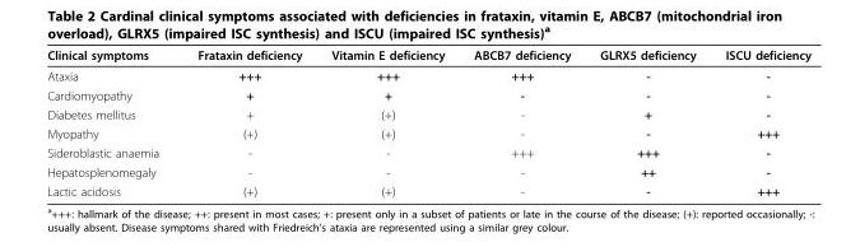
<table><thead><tr><td>Clinical symptoms</td><td>Frataxin deficiency</td><td>Vitamin E deficiency</td><td>ABCB7 deficiency</td><td>GLRX5 deficiency</td><td>ISCU deficiency</td></tr></thead><tbody><tr><td>Ataxia</td><td>+++</td><td>+++</td><td>+++</td><td>-</td><td>-</td></tr><tr><td>Cardiomyopathy</td><td>+</td><td>+</td><td>-</td><td>-</td><td>-</td></tr><tr><td>Diabetes mellitus</td><td>+</td><td>(+)</td><td>-</td><td>+</td><td>-</td></tr><tr><td>Myopathy</td><td>(+)</td><td>(+)</td><td>-</td><td>-</td><td>+++</td></tr><tr><td>Sideroblastic anaemia</td><td>-</td><td>-</td><td>+++</td><td>+++</td><td>-</td></tr><tr><td>Hepatosplenomegaly</td><td>-</td><td>-</td><td>-</td><td>++</td><td>-</td></tr><tr><td>Lactic acidosis</td><td>(+)</td><td>(+)</td><td>-</td><td>-</td><td>+++</td></tr></tbody></table>